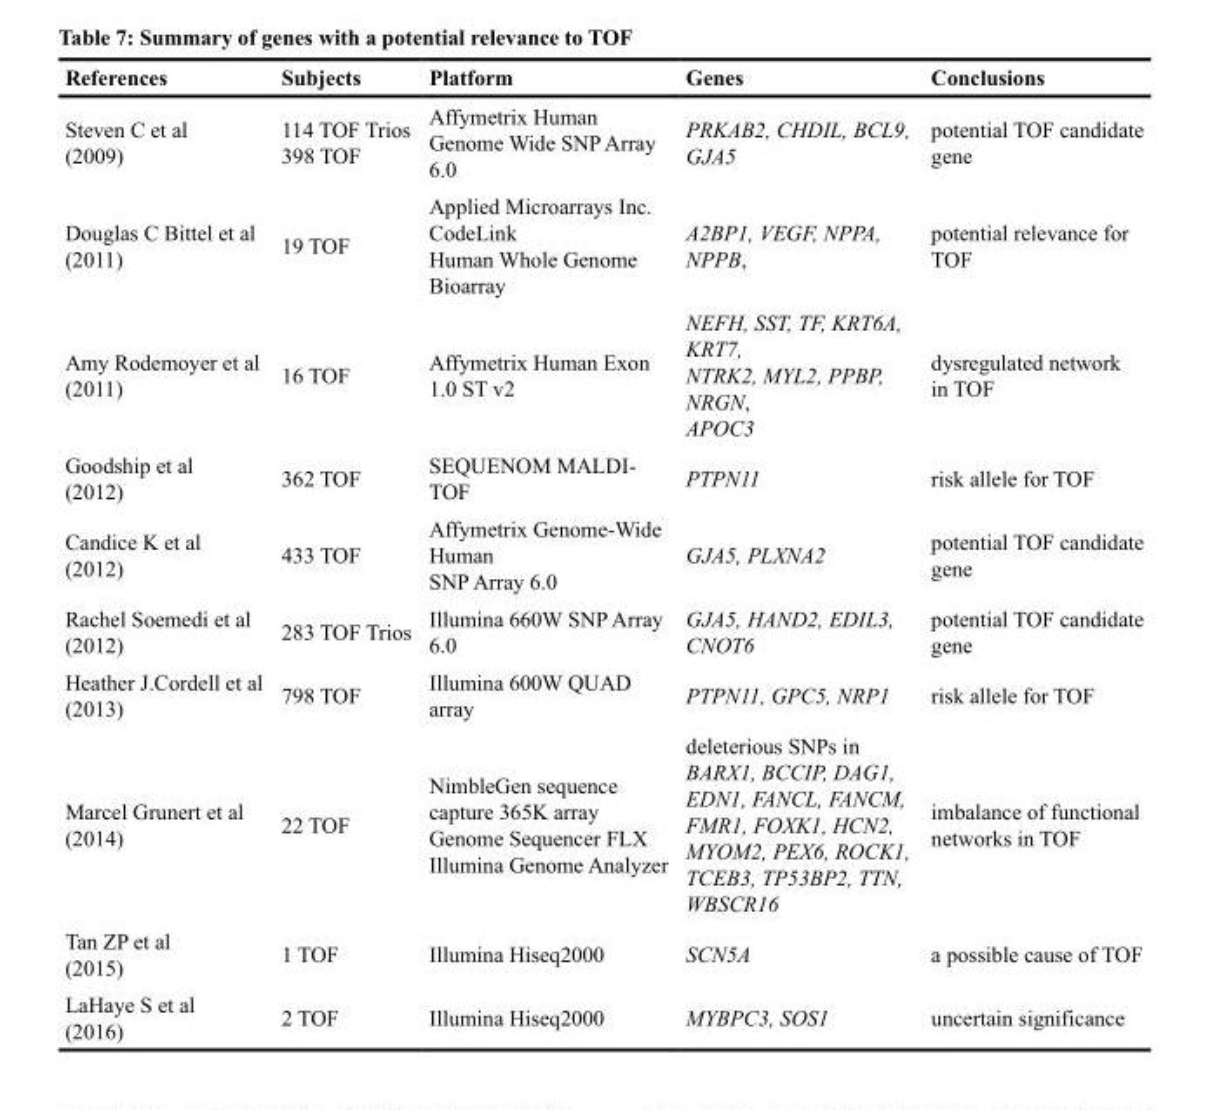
<table><thead><tr><td>References</td><td>Subjects</td><td>Platform</td><td>Genes</td><td>Conclusions</td></tr></thead><tbody><tr><td>Steven C et al (2009)</td><td>114 TOF Trios 398 TOF</td><td>Affymetrix Human Genome Wide SNP Array 6.0</td><td>PRKAB2, CHDIL, BCL9, GJA5</td><td>potential TOF candidate gene</td></tr><tr><td>Douglas C Bittel et al (2011)</td><td>19 TOF</td><td>Applied Microarrays Inc. CodeLink Human Whole Genome Bioarray</td><td>A2BP1, VEGF, NPPA, NPPB,</td><td>potential relevance for TOF</td></tr><tr><td>Amy Rodemoyer et al (2011)</td><td>16 TOF</td><td>Affymetrix Human Exon 1.0 ST v2</td><td>NEFH, SST, TF, KRT6A, KRT7, NTRK2, MYL2, PPBP, NRGN, APOC3</td><td>dysregulated network in TOF</td></tr><tr><td>Goodship et al (2012)</td><td>362 TOF</td><td>SEQUENOM MALDI- TOF</td><td>PTPN11</td><td>risk allele for TOF</td></tr><tr><td>Candice K et al (2012)</td><td>433 TOF</td><td>Affymetrix Genome-Wide Human SNP Array 6.0</td><td>GJA5, PLXNA2</td><td>potential TOF candidate gene</td></tr><tr><td>Rachel Soemedi et al (2012)</td><td>283 TOF Trios</td><td>Illumina 660W SNP Array 6.0</td><td>GJA5, HAND2, EDIL3, CNOT6</td><td>potential TOF candidate gene</td></tr><tr><td>Heather J.Cordell et al (2013)</td><td>798 TOF</td><td>Illumina 600W QUAD array</td><td>PTPN11, GPC5, NRP1</td><td>risk allele for TOF</td></tr><tr><td>Marcel Grunert et al (2014)</td><td>22 TOF</td><td>NimbleGen sequence capture 365K array Genome Sequencer FLX Illumina Genome Analyzer</td><td>deleterious SNPs in BARX1, BCCIP, DAG1, EDN1, FANCL, FANCM, FMR1, FOXK1, HCN2, MYOM2, PEX6, ROCK1, TCEB3, TP53BP2, TTN, WBSCR16</td><td>imbalance of functional networks in TOF</td></tr><tr><td>Tan ZP et al (2015)</td><td>1 TOF</td><td>Illumina Hiseq2000</td><td>SCN5A</td><td>a possible cause of TOF</td></tr><tr><td>LaHaye S et al (2016)</td><td>2 TOF</td><td>Illumina Hiseq2000</td><td>MYBPC3, SOS1</td><td>uncertain significance</td></tr></tbody></table>